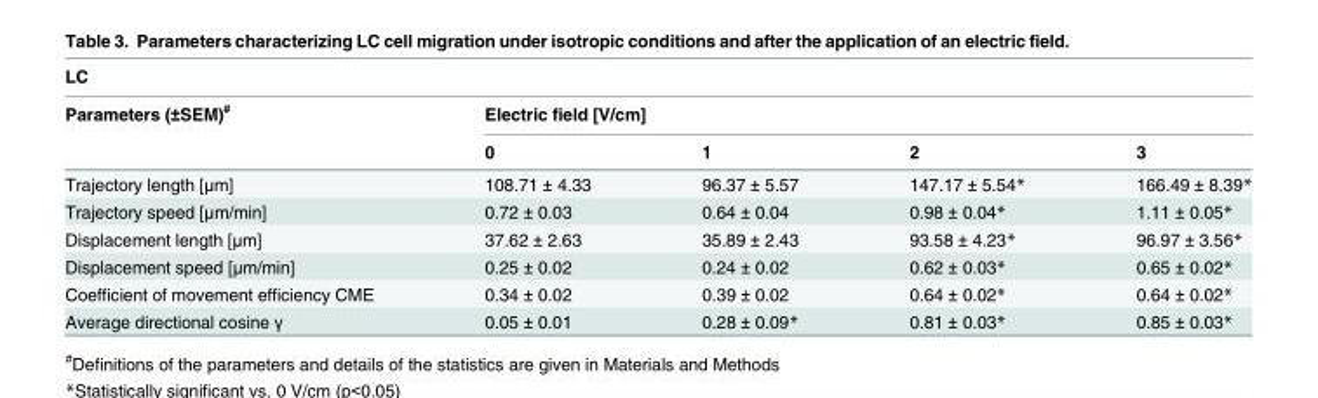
<table><thead><tr><td colspan="5">LC</td></tr><tr><td rowspan="2">Parameters (±SEM)<sup>#</sup></td><td colspan="4">Electric field [V/cm]</td></tr><tr><td>0</td><td>1</td><td>2</td><td>3</td></tr></thead><tbody><tr><td>Trajectory length [μm]</td><td>108.71 ± 4.33</td><td>96.37 ± 5.57</td><td>147.17 ± 5.54*</td><td>166.49 ± 8.39*</td></tr><tr><td>Trajectory speed [μm/min]</td><td>0.72 ± 0.03</td><td>0.64 ± 0.04</td><td>0.98 ± 0.04*</td><td>1.11 ± 0.05*</td></tr><tr><td>Displacement length [μm]</td><td>37.62 ± 2.63</td><td>35.89 ± 2.43</td><td>93.58 ± 4.23*</td><td>96.97 ± 3.56*</td></tr><tr><td>Displacement speed [μm/min]</td><td>0.25 ± 0.02</td><td>0.24 ± 0.02</td><td>0.62 ± 0.03*</td><td>0.65 ± 0.02*</td></tr><tr><td>Coefficient of movement efficiency CME</td><td>0.34 ± 0.02</td><td>0.39 ± 0.02</td><td>0.64 ± 0.02*</td><td>0.64 ± 0.02*</td></tr><tr><td>Average directional cosine γ</td><td>0.05 ± 0.01</td><td>0.28 ± 0.09*</td><td>0.81 ± 0.03*</td><td>0.85 ± 0.03*</td></tr></tbody></table>